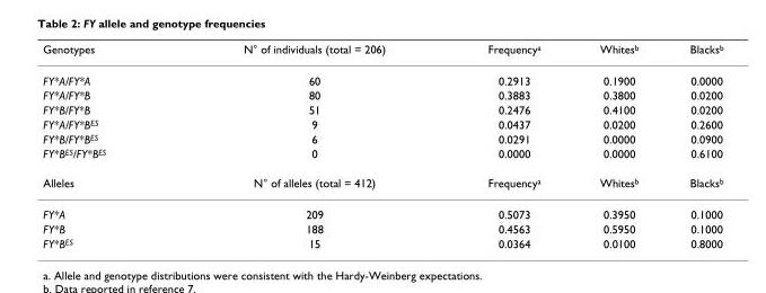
<table><thead><tr><td>Genotypes</td><td>N° of individuals (total = 206)</td><td>Frequency<sup>a</sup></td><td>Whites<sup>b</sup></td><td>Blacks<sup>b</sup></td></tr></thead><tbody><tr><td>FY*A/FY*A</td><td>60</td><td>0.2913</td><td>0.1900</td><td>0.0000</td></tr><tr><td>FY*A/FY*B</td><td>80</td><td>0.3883</td><td>0.3800</td><td>0.0200</td></tr><tr><td>FY*B/FY*B</td><td>51</td><td>0.2476</td><td>0.4100</td><td>0.0200</td></tr><tr><td>FY*A/FY*B<sup>ES</sup></td><td>9</td><td>0.0437</td><td>0.0200</td><td>0.2600</td></tr><tr><td>FY*B/FY*B<sup>ES</sup></td><td>6</td><td>0.0291</td><td>0.0000</td><td>0.0900</td></tr><tr><td>FY*B<sup>ES</sup>/FY*B<sup>ES</sup></td><td>0</td><td>0.0000</td><td>0.0000</td><td>0.6100</td></tr><tr><td>Alleles</td><td>N° of alleles (total = 412)</td><td>Frequency<sup>a</sup></td><td>Whites<sup>b</sup></td><td>Blacks<sup>b</sup></td></tr><tr><td>FY*A</td><td>209</td><td>0.5073</td><td>0.3950</td><td>0.1000</td></tr><tr><td>FY*B</td><td>188</td><td>0.4563</td><td>0.5950</td><td>0.1000</td></tr><tr><td>FY*B<sup>ES</sup></td><td>15</td><td>0.0364</td><td>0.0100</td><td>0.8000</td></tr></tbody></table>